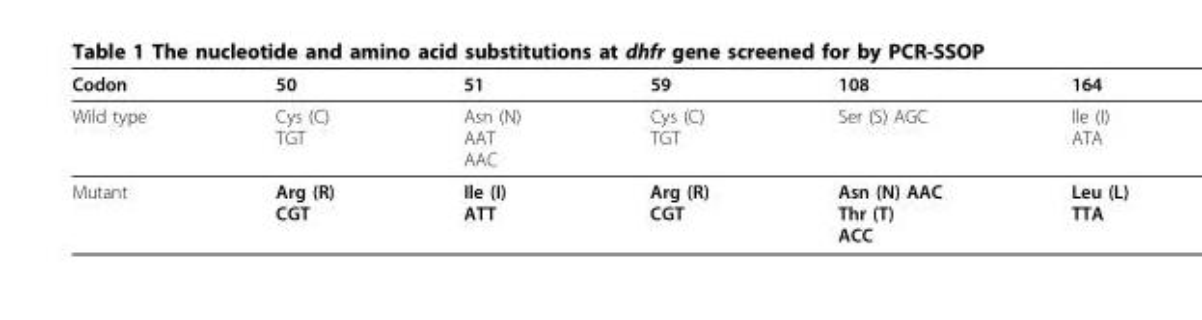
<table><thead><tr><td>Codon</td><td>50</td><td>51</td><td>59</td><td>108</td><td>164</td></tr></thead><tbody><tr><td>Wild type</td><td>Cys (C) TGT</td><td>Asn (N) AAT AAC</td><td>Cys (C) TGT</td><td>Ser (S) AGC</td><td>Ile (I) ATA</td></tr><tr><td>Mutant</td><td>Arg (R) CGT</td><td>Ile (I) ATT</td><td>Arg (R) CGT</td><td>Asn (N) AAC Thr (T) ACC</td><td>Leu (L) TTA</td></tr></tbody></table>